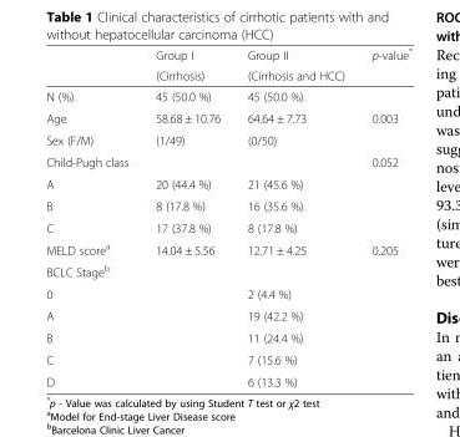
<table><thead><tr><td rowspan="2"></td><td rowspan="2">Group I (Cirrhosis)</td><td rowspan="2">Group II (Cirrhosis and HCC)</td><td rowspan="2">p-value*</td></tr><tr></tr></thead><tbody><tr><td>N (%)</td><td>45 (50.0 %)</td><td>45 (50.0 %)</td><td></td></tr><tr><td>Age</td><td>58.68 ± 10.76</td><td>64.64 ± 7.73</td><td>0.003</td></tr><tr><td>Sex (F/M)</td><td>(1/49)</td><td>(0/50)</td><td></td></tr><tr><td colspan="3">Child-Pugh class</td><td rowspan="4">0.052</td></tr><tr><td>A</td><td>20 (44.4 %)</td><td>21 (45.6 %)</td></tr><tr><td>B</td><td>8 (17.8 %)</td><td>16 (35.6 %)</td></tr><tr><td>C</td><td>17 (37.8 %)</td><td>8 (17.8 %)</td></tr><tr><td>MELD score<sup>a</sup></td><td>14.04 ± 5.56</td><td>12.71 ± 4.25</td><td>0.205</td></tr><tr><td colspan="3">BCLC Stage<sup>b</sup></td><td rowspan="6"></td></tr><tr><td>0</td><td></td><td>2 (4.4 %)</td></tr><tr><td>A</td><td></td><td>19 (42.2 %)</td></tr><tr><td>B</td><td></td><td>11 (24.4 %)</td></tr><tr><td>C</td><td></td><td>7 (15.6 %)</td></tr><tr><td>D</td><td></td><td>6 (13.3 %)</td></tr></tbody></table>